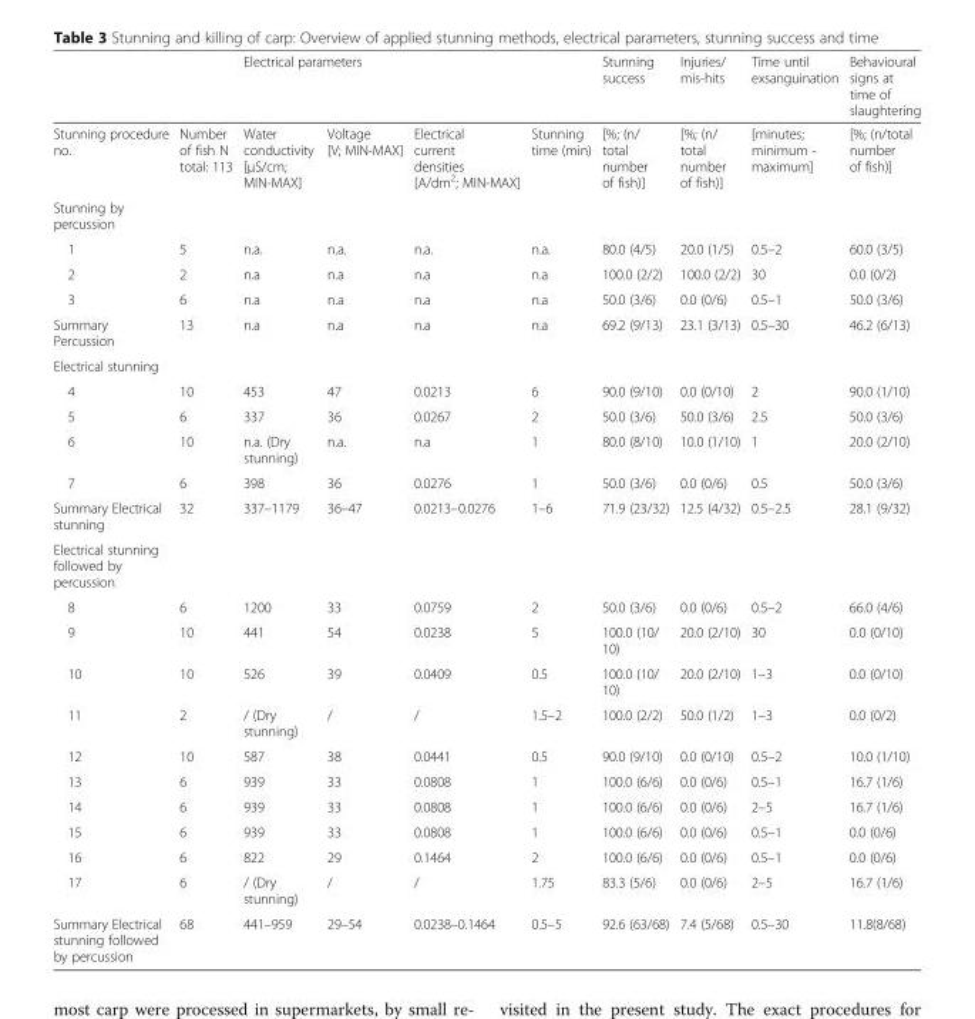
<table><thead><tr><td rowspan="2">Stunning procedure no.</td><td rowspan="2">Number of fish N total: 113</td><td colspan="3">Electrical parameters</td><td rowspan="2">Stunning time (min)</td><td rowspan="2">Stunning success [%; (n/ total number of fish)]</td><td rowspan="2">Injuries/ mis-hits [%; (n/ total number of fish)]</td><td rowspan="2">Time until exsanguination [minutes; minimum - maximum]</td><td rowspan="2">Behavioural signs at time of slaughtering [%; (n/total number of fish)]</td></tr><tr><td>Water conductivity [μS/cm; MIN-MAX]</td><td>Voltage [V; MIN-MAX]</td><td>Electrical current densities [A/dm<sup>2</sup>; MIN-MAX]</td></tr></thead><tbody><tr><td colspan="10">Stunning by percussion</td></tr><tr><td>1</td><td>5</td><td>n.a.</td><td>n.a.</td><td>n.a.</td><td>n.a.</td><td>80.0 (4/5)</td><td>20.0 (1/5)</td><td>0.5–2</td><td>60.0 (3/5)</td></tr><tr><td>2</td><td>2</td><td>n.a</td><td>n.a</td><td>n.a</td><td>n.a</td><td>100.0 (2/2)</td><td>100.0 (2/2)</td><td>30</td><td>0.0 (0/2)</td></tr><tr><td>3</td><td>6</td><td>n.a</td><td>n.a</td><td>n.a</td><td>n.a</td><td>50.0 (3/6)</td><td>0.0 (0/6)</td><td>0.5–1</td><td>50.0 (3/6)</td></tr><tr><td>Summary Percussion</td><td>13</td><td>n.a</td><td>n.a</td><td>n.a</td><td>n.a</td><td>69.2 (9/13)</td><td>23.1 (3/13)</td><td>0.5–30</td><td>46.2 (6/13)</td></tr><tr><td colspan="10">Electrical stunning</td></tr><tr><td>4</td><td>10</td><td>453</td><td>47</td><td>0.0213</td><td>6</td><td>90.0 (9/10)</td><td>0.0 (0/10)</td><td>2</td><td>90.0 (1/10)</td></tr><tr><td>5</td><td>6</td><td>337</td><td>36</td><td>0.0267</td><td>2</td><td>50.0 (3/6)</td><td>50.0 (3/6)</td><td>2.5</td><td>50.0 (3/6)</td></tr><tr><td>6</td><td>10</td><td>n.a. (Dry stunning)</td><td>n.a.</td><td>n.a</td><td>1</td><td>80.0 (8/10)</td><td>10.0 (1/10)</td><td>1</td><td>20.0 (2/10)</td></tr><tr><td>7</td><td>6</td><td>398</td><td>36</td><td>0.0276</td><td>1</td><td>50.0 (3/6)</td><td>0.0 (0/6)</td><td>0.5</td><td>50.0 (3/6)</td></tr><tr><td>Summary Electrical stunning</td><td>32</td><td>337–1179</td><td>36–47</td><td>0.0213–0.0276</td><td>1–6</td><td>71.9 (23/32)</td><td>12.5 (4/32)</td><td>0.5–2.5</td><td>28.1 (9/32)</td></tr><tr><td colspan="10">Electrical stunning followed by percussion</td></tr><tr><td>8</td><td>6</td><td>1200</td><td>33</td><td>0.0759</td><td>2</td><td>50.0 (3/6)</td><td>0.0 (0/6)</td><td>0.5–2</td><td>66.0 (4/6)</td></tr><tr><td>9</td><td>10</td><td>441</td><td>54</td><td>0.0238</td><td>5</td><td>100.0 (10/ 10)</td><td>20.0 (2/10)</td><td>30</td><td>0.0 (0/10)</td></tr><tr><td>10</td><td>10</td><td>526</td><td>39</td><td>0.0409</td><td>0.5</td><td>100.0 (10/ 10)</td><td>20.0 (2/10)</td><td>1–3</td><td>0.0 (0/10)</td></tr><tr><td>11</td><td>2</td><td>/ (Dry stunning)</td><td>/</td><td>/</td><td>1.5–2</td><td>100.0 (2/2)</td><td>50.0 (1/2)</td><td>1–3</td><td>0.0 (0/2)</td></tr><tr><td>12</td><td>10</td><td>587</td><td>38</td><td>0.0441</td><td>0.5</td><td>90.0 (9/10)</td><td>0.0 (0/10)</td><td>0.5–2</td><td>10.0 (1/10)</td></tr><tr><td>13</td><td>6</td><td>939</td><td>33</td><td>0.0808</td><td>1</td><td>100.0 (6/6)</td><td>0.0 (0/6)</td><td>0.5–1</td><td>16.7 (1/6)</td></tr><tr><td>14</td><td>6</td><td>939</td><td>33</td><td>0.0808</td><td>1</td><td>100.0 (6/6)</td><td>0.0 (0/6)</td><td>2–5</td><td>16.7 (1/6)</td></tr><tr><td>15</td><td>6</td><td>939</td><td>33</td><td>0.0808</td><td>1</td><td>100.0 (6/6)</td><td>0.0 (0/6)</td><td>0.5–1</td><td>0.0 (0/6)</td></tr><tr><td>16</td><td>6</td><td>822</td><td>29</td><td>0.1464</td><td>2</td><td>100.0 (6/6)</td><td>0.0 (0/6)</td><td>0.5–1</td><td>0.0 (0/6)</td></tr><tr><td>17</td><td>6</td><td>/ (Dry stunning)</td><td>/</td><td>/</td><td>1.75</td><td>83.3 (5/6)</td><td>0.0 (0/6)</td><td>2–5</td><td>16.7 (1/6)</td></tr><tr><td>Summary Electrical stunning followed by percussion</td><td>68</td><td>441–959</td><td>29–54</td><td>0.0238–0.1464</td><td>0.5–5</td><td>92.6 (63/68)</td><td>7.4 (5/68)</td><td>0.5–30</td><td>11.8(8/68)</td></tr></tbody></table>